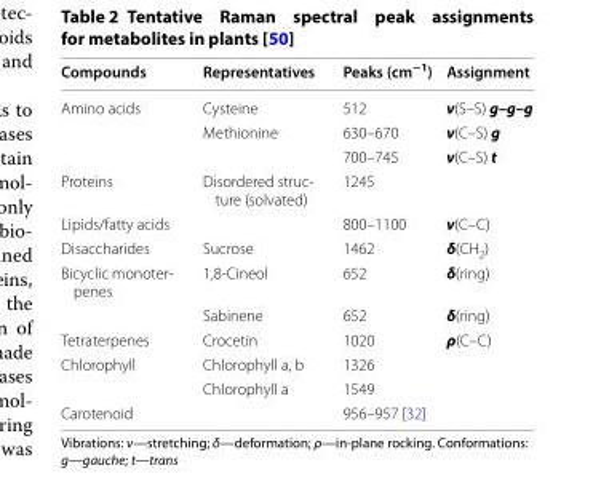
<table><thead><tr><td>Compounds</td><td>Representatives</td><td>Peaks (cm<sup>−1</sup>)</td><td>Assignment</td></tr></thead><tbody><tr><td rowspan="3">Amino acids</td><td>Cysteine</td><td>512</td><td>ν(S–S) g–g–g</td></tr><tr><td>Methionine</td><td>630–670</td><td>ν(C–S) g</td></tr><tr><td></td><td>700–745</td><td>ν(C–S) t</td></tr><tr><td>Proteins</td><td>Disordered struc- ture (solvated)</td><td>1245</td><td></td></tr><tr><td>Lipids/fatty acids</td><td></td><td>800–1100</td><td>ν(C–C)</td></tr><tr><td>Disaccharides</td><td>Sucrose</td><td>1462</td><td>δ(CH<sub>2</sub>)</td></tr><tr><td rowspan="2">Bicyclic monoter- penes</td><td>1,8-Cineol</td><td>652</td><td>δ(ring)</td></tr><tr><td>Sabinene</td><td>652</td><td>δ(ring)</td></tr><tr><td>Tetraterpenes</td><td>Crocetin</td><td>1020</td><td>ρ(C–C)</td></tr><tr><td rowspan="2">Chlorophyll</td><td>Chlorophyll a, b</td><td>1326</td><td></td></tr><tr><td>Chlorophyll a</td><td>1549</td><td></td></tr><tr><td>Carotenoid</td><td></td><td>956–957 [32]</td><td></td></tr></tbody></table>